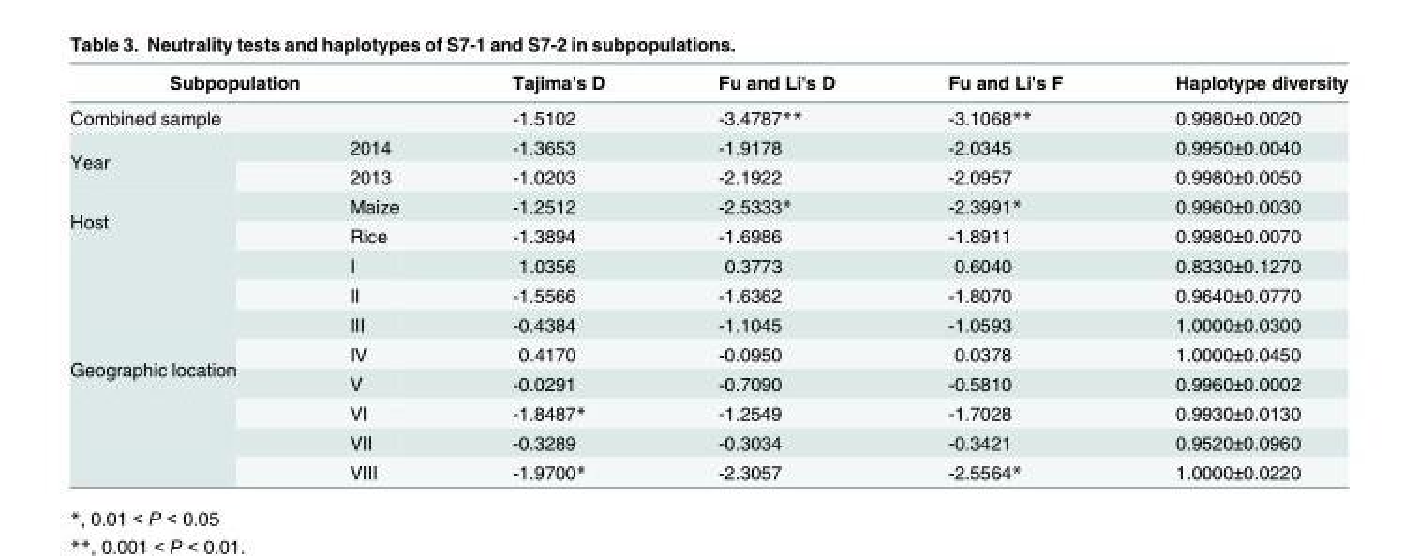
<table><thead><tr><td colspan="2">Subpopulation</td><td rowspan="2">Tajima&#x27;s D -1.5102</td><td rowspan="2">Fu and Li&#x27;s D -3.4787**</td><td rowspan="2">Fu and Li&#x27;s F -3.1068**</td><td rowspan="2">Haplotype diversity 0.9980±0.0020</td></tr><tr><td>Combined sample</td><td></td></tr></thead><tbody><tr><td rowspan="2">Year</td><td>2014</td><td>-1.3653</td><td>-1.9178</td><td>-2.0345</td><td>0.9950±0.0040</td></tr><tr><td>2013</td><td>-1.0203</td><td>-2.1922</td><td>-2.0957</td><td>0.9980±0.0050</td></tr><tr><td rowspan="2">Host</td><td>Maize</td><td>-1.2512</td><td>-2.5333*</td><td>-2.3991*</td><td>0.9960±0.0030</td></tr><tr><td>Rice</td><td>-1.3894</td><td>-1.6986</td><td>-1.8911</td><td>0.9980±0.0070</td></tr><tr><td rowspan="8">Geographic location</td><td>I</td><td>1.0356</td><td>0.3773</td><td>0.6040</td><td>0.8330±0.1270</td></tr><tr><td>II</td><td>-1.5566</td><td>-1.6362</td><td>-1.8070</td><td>0.9640±0.0770</td></tr><tr><td>III</td><td>-0.4384</td><td>-1.1045</td><td>-1.0593</td><td>1.0000±0.0300</td></tr><tr><td>IV</td><td>0.4170</td><td>-0.0950</td><td>0.0378</td><td>1.0000±0.0450</td></tr><tr><td>V</td><td>-0.0291</td><td>-0.7090</td><td>-0.5810</td><td>0.9960±0.0002</td></tr><tr><td>VI</td><td>-1.8487*</td><td>-1.2549</td><td>-1.7028</td><td>0.9930±0.0130</td></tr><tr><td>VII</td><td>-0.3289</td><td>-0.3034</td><td>-0.3421</td><td>0.9520±0.0960</td></tr><tr><td>VIII</td><td>-1.9700*</td><td>-2.3057</td><td>-2.5564*</td><td>1.0000±0.0220</td></tr></tbody></table>